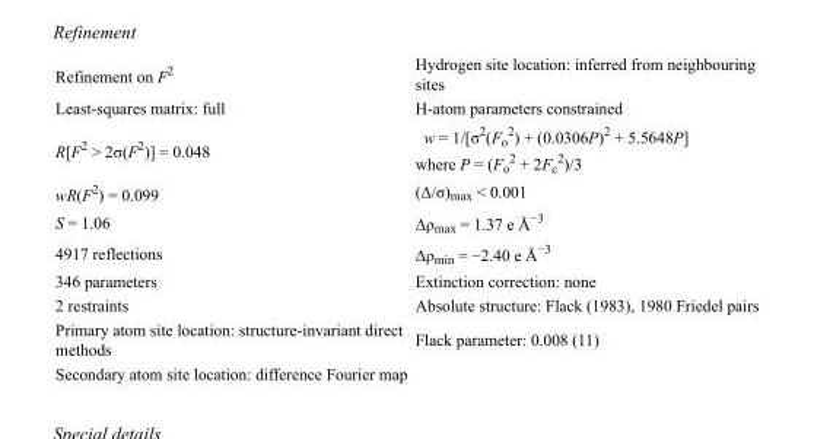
<table><tbody><tr><td>Refinement on F<sup>2</sup></td><td>Hydrogen site location: inferred from neighbouring sites</td></tr><tr><td>Least-squares matrix: full</td><td>H-atom parameters constrained</td></tr><tr><td>R[F<sup>2</sup> &gt; 2σ(F<sup>2</sup>)] = 0.048</td><td>w = 1/[σ<sup>2</sup>(F<sub>o</sub> <sup>2</sup>) + (0.0306P)<sup>2</sup> + 5.5648P] where P = (F<sub>o</sub> <sup>2</sup> + 2F<sub>c</sub> <sup>2</sup>)/3</td></tr><tr><td>wR(F<sup>2</sup>) = 0.099</td><td>(Δ/σ)<sub>max</sub> &lt; 0.001</td></tr><tr><td>S = 1.06</td><td>Δρ<sub>max</sub> = 1.37 e Å<sup>−3</sup></td></tr><tr><td>4917 reflections</td><td>Δρ<sub>min</sub> = −2.40 e Å<sup>−3</sup></td></tr><tr><td>346 parameters</td><td>Extinction correction: none</td></tr><tr><td>2 restraints</td><td>Absolute structure: Flack (1983), 1980 Friedel pairs</td></tr><tr><td>Primary atom site location: structure-invariant direct methods</td><td>Flack parameter: 0.008 (11)</td></tr><tr><td>Secondary atom site location: difference Fourier map</td><td></td></tr></tbody></table>